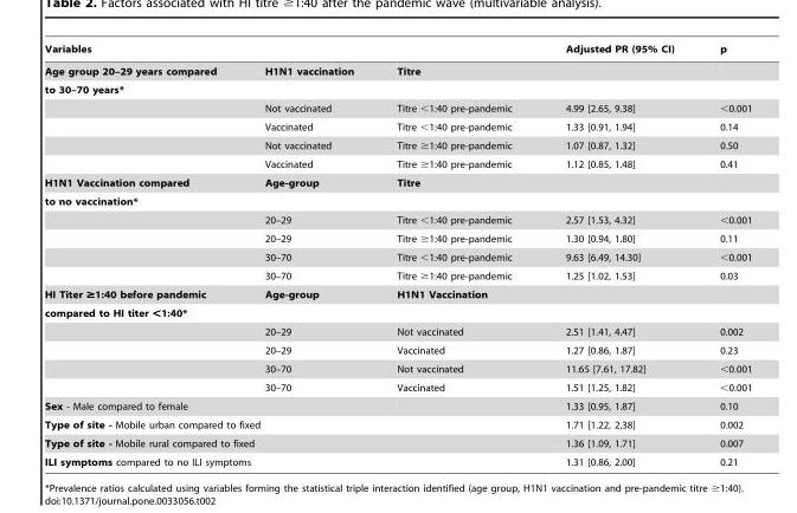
<table><thead><tr><td>Variables</td><td></td><td></td><td>Adjusted PR (95% CI)</td><td>p</td></tr></thead><tbody><tr><td>Age group 20–29 years compared</td><td>H1N1 vaccination</td><td>Titre</td><td></td><td></td></tr><tr><td colspan="5">to 30–70 years*</td></tr><tr><td></td><td>Not vaccinated</td><td>Titre &lt;1:40 pre-pandemic</td><td>4.99 [2.65, 9.38]</td><td>&lt;0.001</td></tr><tr><td></td><td>Vaccinated</td><td>Titre &lt;1:40 pre-pandemic</td><td>1.33 [0.91, 1.94]</td><td>0.14</td></tr><tr><td></td><td>Not vaccinated</td><td>Titre ≥1:40 pre-pandemic</td><td>1.07 [0.87, 1.32]</td><td>0.50</td></tr><tr><td></td><td>Vaccinated</td><td>Titre ≥1:40 pre-pandemic</td><td>1.12 [0.85, 1.48]</td><td>0.41</td></tr><tr><td>H1N1 Vaccination compared</td><td>Age-group</td><td>Titre</td><td></td><td></td></tr><tr><td colspan="5">to no vaccination*</td></tr><tr><td></td><td>20–29</td><td>Titre &lt;1:40 pre-pandemic</td><td>2.57 [1.53, 4.32]</td><td>&lt;0.001</td></tr><tr><td></td><td>20–29</td><td>Titre ≥1:40 pre-pandemic</td><td>1.30 [0.94, 1.80]</td><td>0.11</td></tr><tr><td></td><td>30–70</td><td>Titre &lt;1:40 pre-pandemic</td><td>9.63 [6.49, 14.30]</td><td>&lt;0.001</td></tr><tr><td></td><td>30–70</td><td>Titre ≥1:40 pre-pandemic</td><td>1.25 [1.02, 1.53]</td><td>0.03</td></tr><tr><td>HI Titer ≥1:40 before pandemic</td><td>Age-group</td><td>H1N1 Vaccination</td><td></td><td></td></tr><tr><td colspan="5">compared to HI titer &lt;1:40*</td></tr><tr><td></td><td>20–29</td><td>Not vaccinated</td><td>2.51 [1.41, 4.47]</td><td>0.002</td></tr><tr><td></td><td>20–29</td><td>Vaccinated</td><td>1.27 [0.86, 1.87]</td><td>0.23</td></tr><tr><td></td><td>30–70</td><td>Not vaccinated</td><td>11.65 [7.61, 17.82]</td><td>&lt;0.001</td></tr><tr><td></td><td>30–70</td><td>Vaccinated</td><td>1.51 [1.25, 1.82]</td><td>&lt;0.001</td></tr><tr><td>Sex - Male compared to female</td><td></td><td></td><td>1.33 [0.95, 1.87]</td><td>0.10</td></tr><tr><td colspan="3">Type of site - Mobile urban compared to fixed</td><td>1.71 [1.22, 2,38]</td><td>0.002</td></tr><tr><td colspan="3">Type of site - Mobile rural compared to fixed</td><td>1.36 [1.09, 1.71]</td><td>0.007</td></tr><tr><td colspan="3">ILI symptoms compared to no ILI symptoms</td><td>1.31 [0.86, 2.00]</td><td>0.21</td></tr></tbody></table>